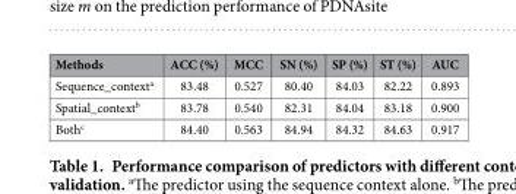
<table><thead><tr><td>Methods</td><td>ACC (%)</td><td>MCC</td><td>SN (%)</td><td>SP (%)</td><td>ST (%)</td><td>AUC</td></tr></thead><tbody><tr><td>Sequence_context<sup>a</sup></td><td>83.48</td><td>0.527</td><td>80.40</td><td>84.03</td><td>82.22</td><td>0.893</td></tr><tr><td>Spatial_context<sup>b</sup></td><td>83.78</td><td>0.540</td><td>82.31</td><td>84.04</td><td>83.18</td><td>0.900</td></tr><tr><td>Both<sup>c</sup></td><td>84.40</td><td>0.563</td><td>84.94</td><td>84.32</td><td>84.63</td><td>0.917</td></tr></tbody></table>